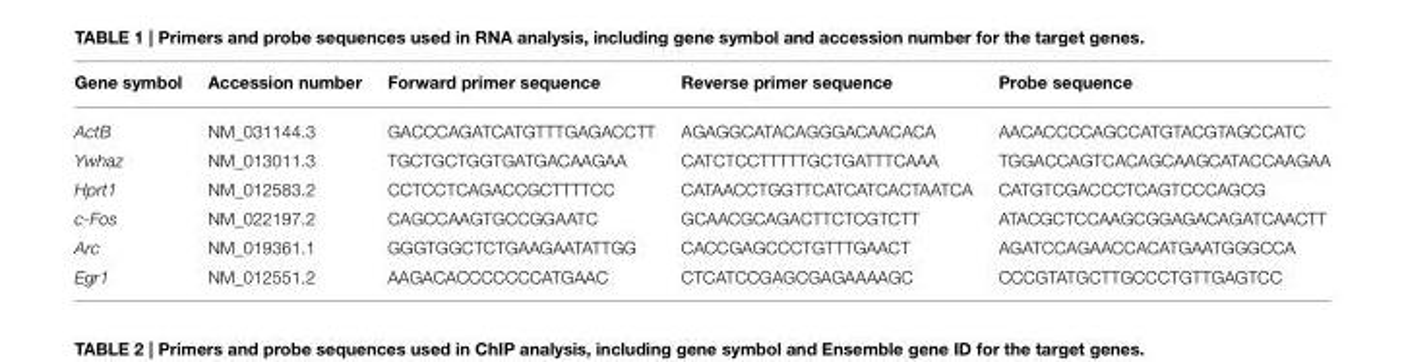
<table><thead><tr><td>Gene symbol</td><td>Accession number</td><td>Forward primer sequence</td><td>Reverse primer sequence</td><td>Probe sequence</td></tr></thead><tbody><tr><td>ActB</td><td>NM_031144.3</td><td>GACCCAGATCATGTTTGAGACCTT</td><td>AGAGGCATACAGGGACAACACA</td><td>AACACCCCAGCCATGTACGTAGCCATC</td></tr><tr><td>Ywhaz</td><td>NM_013011.3</td><td>TGCTGCTGGTGATGACAAGAA</td><td>CATCTCCTTTTTGCTGATTTCAAA</td><td>TGGACCAGTCACAGCAAGCATACCAAGAA</td></tr><tr><td>Hprt1</td><td>NM_012583.2</td><td>CCTCCTCAGACCGCTTTTCC</td><td>CATAACCTGGTTCATCATCACTAATCA</td><td>CATGTCGACCCTCAGTCCCAGCG</td></tr><tr><td>c-Fos</td><td>NM_022197.2</td><td>CAGCCAAGTGCCGGAATC</td><td>GCAACGCAGACTTCTCGTCTT</td><td>ATACGCTCCAAGCGGAGACAGATCAACTT</td></tr><tr><td>Arc</td><td>NM_019361.1</td><td>GGGTGGCTCTGAAGAATATTGG</td><td>CACCGAGCCCTGTTTGAACT</td><td>AGATCCAGAACCACATGAATGGGCCA</td></tr><tr><td>Egr1</td><td>NM_012551.2</td><td>AAGACACCCCCCCATGAAC</td><td>CTCATCCGAGCGAGAAAAGC</td><td>CCCGTATGCTTGCCCTGTTGAGTCC</td></tr></tbody></table>